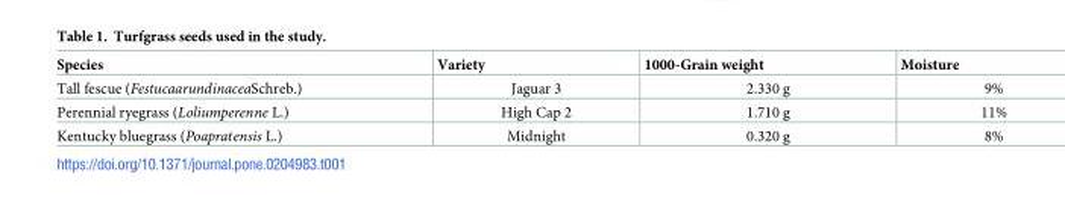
<table><thead><tr><td>Species</td><td>Variety</td><td>1000-Grain weight</td><td>Moisture</td></tr></thead><tbody><tr><td>Tall fescue (FestucaarundinaceaSchreb.)</td><td>Jaguar 3</td><td>2.330 g</td><td>9%</td></tr><tr><td>Perennial ryegrass (Loliumperenne L.)</td><td>High Cap 2</td><td>1.710 g</td><td>11%</td></tr><tr><td>Kentucky bluegrass (Poapratensis L.)</td><td>Midnight</td><td>0.320 g</td><td>8%</td></tr></tbody></table>